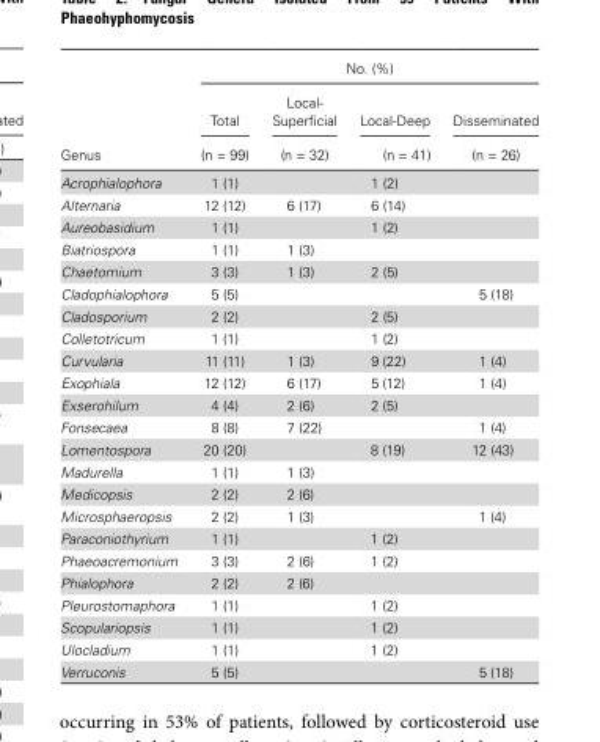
<table><thead><tr><td rowspan="3">Genus</td><td colspan="4">No. (%)</td></tr><tr><td rowspan="2">Total (n = 99)</td><td rowspan="2">Local- Superficial (n = 32)</td><td rowspan="2">Local-Deep (n = 41)</td><td rowspan="2">Disseminated (n = 26)</td></tr><tr></tr></thead><tbody><tr><td>Acrophialophora</td><td>1 (1)</td><td></td><td>1 (2)</td><td></td></tr><tr><td>Alternaria</td><td>12 (12)</td><td>6 (17)</td><td>6 (14)</td><td></td></tr><tr><td>Aureobasidium</td><td>1 (1)</td><td></td><td>1 (2)</td><td></td></tr><tr><td>Biatriospora</td><td>1 (1)</td><td>1 (3)</td><td></td><td></td></tr><tr><td>Chaetomium</td><td>3 (3)</td><td>1 (3)</td><td>2 (5)</td><td></td></tr><tr><td>Cladophialophora</td><td>5 (5)</td><td></td><td></td><td>5 (18)</td></tr><tr><td>Cladosporium</td><td>2 (2)</td><td></td><td>2 (5)</td><td></td></tr><tr><td>Colletotricum</td><td>1 (1)</td><td></td><td>1 (2)</td><td></td></tr><tr><td>Curvularia</td><td>11 (11)</td><td>1 (3)</td><td>9 (22)</td><td>1 (4)</td></tr><tr><td>Exophiala</td><td>12 (12)</td><td>6 (17)</td><td>5 (12)</td><td>1 (4)</td></tr><tr><td>Exserohilum</td><td>4 (4)</td><td>2 (6)</td><td>2 (5)</td><td></td></tr><tr><td>Fonsecaea</td><td>8 (8)</td><td>7 (22)</td><td></td><td>1 (4)</td></tr><tr><td>Lomentospora</td><td>20 (20)</td><td></td><td>8 (19)</td><td>12 (43)</td></tr><tr><td>Madurella</td><td>1 (1)</td><td>1 (3)</td><td></td><td></td></tr><tr><td>Medicopsis</td><td>2 (2)</td><td>2 (6)</td><td></td><td></td></tr><tr><td>Microsphaeropsis</td><td>2 (2)</td><td>1 (3)</td><td></td><td>1 (4)</td></tr><tr><td>Paraconiothyrium</td><td>1 (1)</td><td></td><td>1 (2)</td><td></td></tr><tr><td>Phaeoacremonium</td><td>3 (3)</td><td>2 (6)</td><td>1 (2)</td><td></td></tr><tr><td>Phialophora</td><td>2 (2)</td><td>2 (6)</td><td></td><td></td></tr><tr><td>Pleurostomaphora</td><td>1 (1)</td><td></td><td>1 (2)</td><td></td></tr><tr><td>Scopulariopsis</td><td>1 (1)</td><td></td><td>1 (2)</td><td></td></tr><tr><td>Ulocladium</td><td>1 (1)</td><td></td><td>1 (2)</td><td></td></tr><tr><td>Verruconis</td><td>5 (5)</td><td></td><td></td><td>5 (18)</td></tr></tbody></table>